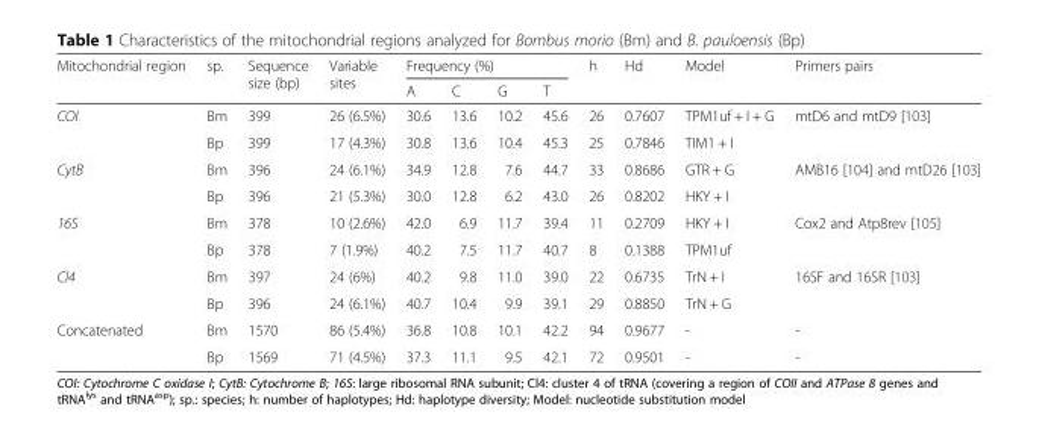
<table><thead><tr><td rowspan="2">Mitochondrial region</td><td rowspan="2">sp.</td><td rowspan="2">Sequence size (bp)</td><td rowspan="2">Variable sites</td><td colspan="4">Frequency (%)</td><td rowspan="2">h</td><td rowspan="2">Hd</td><td rowspan="2">Model</td><td rowspan="2">Primers pairs</td></tr><tr><td>A</td><td>C</td><td>G</td><td>T</td></tr></thead><tbody><tr><td rowspan="2">COI</td><td>Bm</td><td>399</td><td>26 (6.5%)</td><td>30.6</td><td>13.6</td><td>10.2</td><td>45.6</td><td>26</td><td>0.7607</td><td>TPM1uf + I + G</td><td rowspan="2">mtD6 and mtD9 [103]</td></tr><tr><td>Bp</td><td>399</td><td>17 (4.3%)</td><td>30.8</td><td>13.6</td><td>10.4</td><td>45.3</td><td>25</td><td>0.7846</td><td>TIM1 + I</td></tr><tr><td rowspan="2">CytB</td><td>Bm</td><td>396</td><td>24 (6.1%)</td><td>34.9</td><td>12.8</td><td>7.6</td><td>44.7</td><td>33</td><td>0.8686</td><td>GTR + G</td><td rowspan="2">AMB16 [104] and mtD26 [103]</td></tr><tr><td>Bp</td><td>396</td><td>21 (5.3%)</td><td>30.0</td><td>12.8</td><td>6.2</td><td>43.0</td><td>26</td><td>0.8202</td><td>HKY + I</td></tr><tr><td rowspan="2">16S</td><td>Bm</td><td>378</td><td>10 (2.6%)</td><td>42.0</td><td>6.9</td><td>11.7</td><td>39.4</td><td>11</td><td>0.2709</td><td>HKY + I</td><td rowspan="2">Cox2 and Atp8rev [105]</td></tr><tr><td>Bp</td><td>378</td><td>7 (1.9%)</td><td>40.2</td><td>7.5</td><td>11.7</td><td>40.7</td><td>8</td><td>0.1388</td><td>TPM1uf</td></tr><tr><td rowspan="2">Cl4</td><td>Bm</td><td>397</td><td>24 (6%)</td><td>40.2</td><td>9.8</td><td>11.0</td><td>39.0</td><td>22</td><td>0.6735</td><td>TrN + I</td><td rowspan="2">16SF and 16SR [103]</td></tr><tr><td>Bp</td><td>396</td><td>24 (6.1%)</td><td>40.7</td><td>10.4</td><td>9.9</td><td>39.1</td><td>29</td><td>0.8850</td><td>TrN + G</td></tr><tr><td rowspan="2">Concatenated</td><td>Bm</td><td>1570</td><td>86 (5.4%)</td><td>36.8</td><td>10.8</td><td>10.1</td><td>42.2</td><td>94</td><td>0.9677</td><td>-</td><td>-</td></tr><tr><td>Bp</td><td>1569</td><td>71 (4.5%)</td><td>37.3</td><td>11.1</td><td>9.5</td><td>42.1</td><td>72</td><td>0.9501</td><td>-</td><td>-</td></tr></tbody></table>